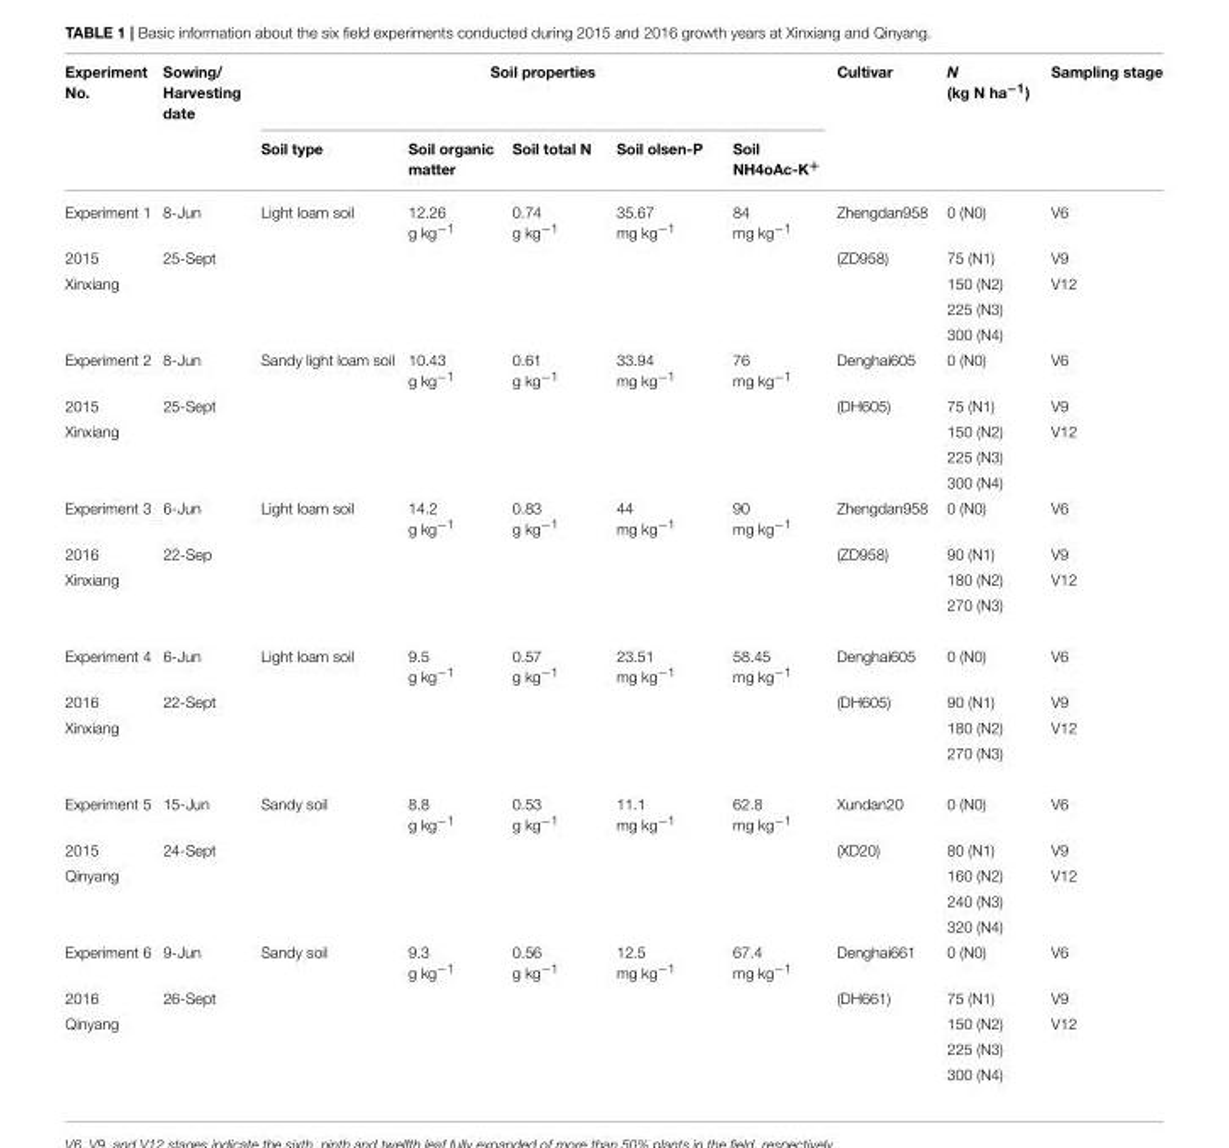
<table><thead><tr><td rowspan="2">Experiment No.</td><td rowspan="2">Sowing/ Harvesting date</td><td colspan="5">Soil properties</td><td rowspan="2">Cultivar</td><td rowspan="2">N (kg N ha<sup>−1</sup>)</td><td rowspan="2">Sampling stage</td></tr><tr><td>Soil type</td><td>Soil organic matter</td><td>Soil total N</td><td>Soil olsen-P</td><td>Soil NH4oAc-K<sup>+</sup></td></tr></thead><tbody><tr><td>Experiment 1</td><td>8-Jun</td><td>Light loam soil</td><td>12.26 g kg<sup>−1</sup></td><td>0.74 g kg<sup>−1</sup></td><td>35.67 mg kg<sup>−1</sup></td><td>84 mg kg<sup>−1</sup></td><td>Zhengdan958</td><td>0 (N0)</td><td>V6</td></tr><tr><td>2015</td><td>25-Sept</td><td></td><td></td><td></td><td></td><td></td><td>(ZD958)</td><td>75 (N1)</td><td>V9</td></tr><tr><td rowspan="3">Xinxiang</td><td></td><td></td><td></td><td></td><td></td><td></td><td></td><td>150 (N2)</td><td>V12</td></tr><tr><td></td><td></td><td></td><td></td><td></td><td></td><td></td><td>225 (N3)</td><td></td></tr><tr><td></td><td></td><td></td><td></td><td></td><td></td><td></td><td>300 (N4)</td><td></td></tr><tr><td>Experiment 2</td><td>8-Jun</td><td>Sandy light loam soil</td><td>10.43 g kg<sup>−1</sup></td><td>0.61 g kg<sup>−1</sup></td><td>33.94 mg kg<sup>−1</sup></td><td>76 mg kg<sup>−1</sup></td><td>Denghai605</td><td>0 (N0)</td><td>V6</td></tr><tr><td>2015</td><td>25-Sept</td><td></td><td></td><td></td><td></td><td></td><td>(DH605)</td><td>75 (N1)</td><td>V9</td></tr><tr><td rowspan="3">Xinxiang</td><td></td><td></td><td></td><td></td><td></td><td></td><td></td><td>150 (N2)</td><td>V12</td></tr><tr><td></td><td></td><td></td><td></td><td></td><td></td><td></td><td>225 (N3)</td><td></td></tr><tr><td></td><td></td><td></td><td></td><td></td><td></td><td></td><td>300 (N4)</td><td></td></tr><tr><td>Experiment 3</td><td>6-Jun</td><td>Light loam soil</td><td>14.2 g kg<sup>−1</sup></td><td>0.83 g kg<sup>−1</sup></td><td>44 mg kg<sup>−1</sup></td><td>90 mg kg<sup>−1</sup></td><td>Zhengdan958</td><td>0 (N0)</td><td>V6</td></tr><tr><td>2016</td><td>22-Sep</td><td></td><td></td><td></td><td></td><td></td><td>(ZD958)</td><td>90 (N1)</td><td>V9</td></tr><tr><td rowspan="2">Xinxiang</td><td></td><td></td><td></td><td></td><td></td><td></td><td></td><td>180 (N2)</td><td>V12</td></tr><tr><td></td><td></td><td></td><td></td><td></td><td></td><td></td><td>270 (N3)</td><td></td></tr><tr><td>Experiment 4</td><td>6-Jun</td><td>Light loam soil</td><td>9.5 g kg<sup>−1</sup></td><td>0.57 g kg<sup>−1</sup></td><td>23.51 mg kg<sup>−1</sup></td><td>58.45 mg kg<sup>−1</sup></td><td>Denghai605</td><td>0 (N0)</td><td>V6</td></tr><tr><td>2016</td><td>22-Sept</td><td></td><td></td><td></td><td></td><td></td><td>(DH605)</td><td>90 (N1)</td><td>V9</td></tr><tr><td rowspan="2">Xinxiang</td><td></td><td></td><td></td><td></td><td></td><td></td><td></td><td>180 (N2)</td><td>V12</td></tr><tr><td></td><td></td><td></td><td></td><td></td><td></td><td></td><td>270 (N3)</td><td></td></tr><tr><td>Experiment 5</td><td>15-Jun</td><td>Sandy soil</td><td>8.8 g kg<sup>−1</sup></td><td>0.53 g kg<sup>−1</sup></td><td>11.1 mg kg<sup>−1</sup></td><td>62.8 mg kg<sup>−1</sup></td><td>Xundan20</td><td>0 (N0)</td><td>V6</td></tr><tr><td>2015</td><td>24-Sept</td><td></td><td></td><td></td><td></td><td></td><td>(XD20)</td><td>80 (N1)</td><td>V9</td></tr><tr><td rowspan="3">Qinyang</td><td></td><td></td><td></td><td></td><td></td><td></td><td></td><td>160 (N2)</td><td>V12</td></tr><tr><td></td><td></td><td></td><td></td><td></td><td></td><td></td><td>240 (N3)</td><td></td></tr><tr><td></td><td></td><td></td><td></td><td></td><td></td><td></td><td>320 (N4)</td><td></td></tr><tr><td>Experiment 6</td><td>9-Jun</td><td>Sandy soil</td><td>9.3 g kg<sup>−1</sup></td><td>0.56 g kg<sup>−1</sup></td><td>12.5 mg kg<sup>−1</sup></td><td>67.4 mg kg<sup>−1</sup></td><td>Denghai661</td><td>0 (N0)</td><td>V6</td></tr><tr><td>2016</td><td>26-Sept</td><td></td><td></td><td></td><td></td><td></td><td>(DH661)</td><td>75 (N1)</td><td>V9</td></tr><tr><td rowspan="3">Qinyang</td><td></td><td></td><td></td><td></td><td></td><td></td><td></td><td>150 (N2)</td><td>V12</td></tr><tr><td></td><td></td><td></td><td></td><td></td><td></td><td></td><td>225 (N3)</td><td></td></tr><tr><td></td><td></td><td></td><td></td><td></td><td></td><td></td><td>300 (N4)</td><td></td></tr></tbody></table>